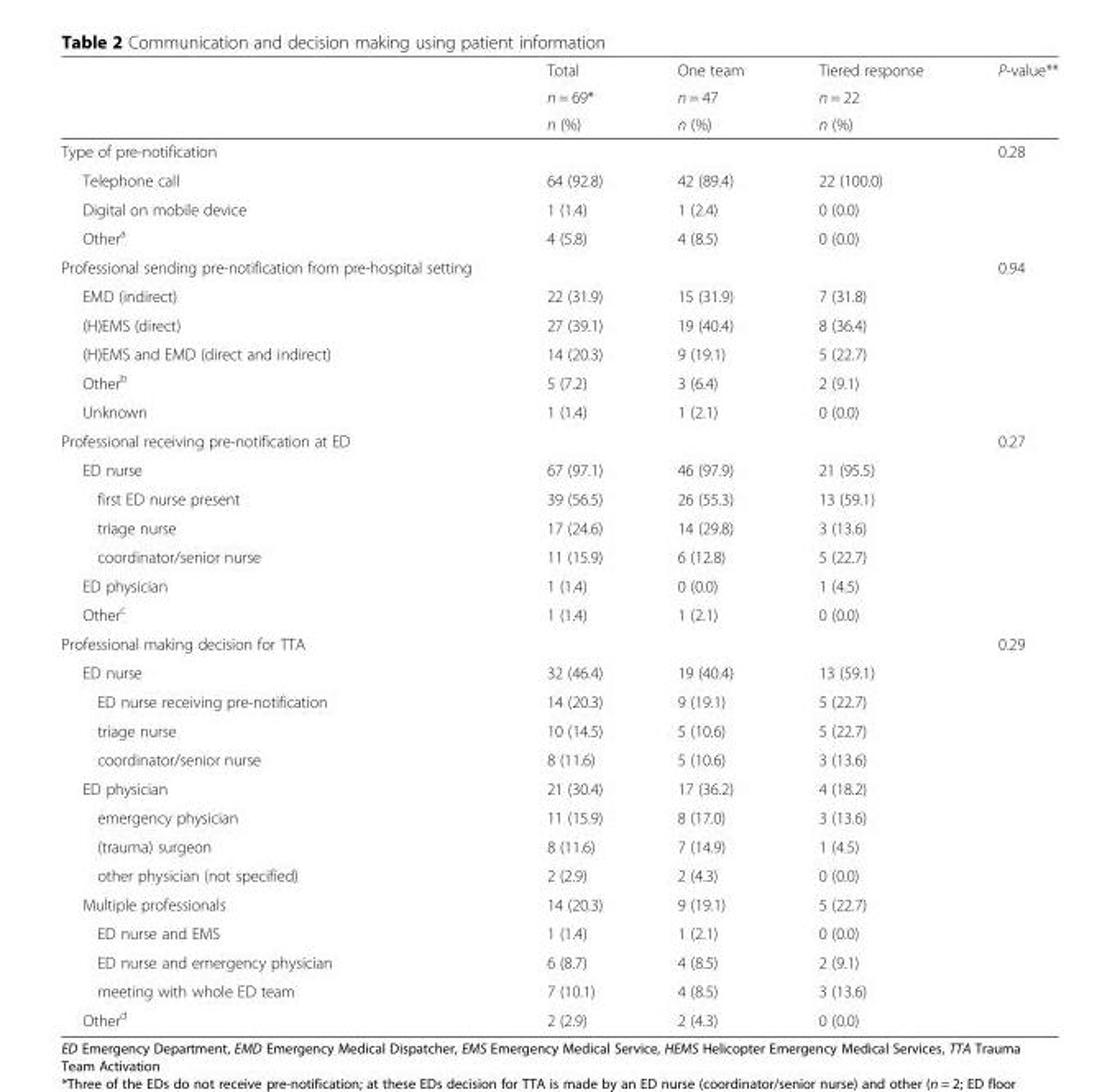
<table><thead><tr><td rowspan="3"></td><td rowspan="3">Total n = 69* n (%)</td><td rowspan="3">One team n = 47 n (%)</td><td rowspan="3">Tiered response n = 22 n (%)</td><td rowspan="3">P-value**</td></tr><tr></tr><tr></tr></thead><tbody><tr><td colspan="4">Type of pre-notification</td><td rowspan="4">0.28</td></tr><tr><td>Telephone call</td><td>64 (92.8)</td><td>42 (89.4)</td><td>22 (100.0)</td></tr><tr><td>Digital on mobile device</td><td>1 (1.4)</td><td>1 (2.4)</td><td>0 (0.0)</td></tr><tr><td>Other<sup>a</sup></td><td>4 (5.8)</td><td>4 (8.5)</td><td>0 (0.0)</td></tr><tr><td colspan="4">Professional sending pre-notification from pre-hospital setting</td><td rowspan="6">0.94</td></tr><tr><td>EMD (indirect)</td><td>22 (31.9)</td><td>15 (31.9)</td><td>7 (31.8)</td></tr><tr><td>(H)EMS (direct)</td><td>27 (39.1)</td><td>19 (40.4)</td><td>8 (36.4)</td></tr><tr><td>(H)EMS and EMD (direct and indirect)</td><td>14 (20.3)</td><td>9 (19.1)</td><td>5 (22.7)</td></tr><tr><td>Other<sup>b</sup></td><td>5 (7.2)</td><td>3 (6.4)</td><td>2 (9.1)</td></tr><tr><td>Unknown</td><td>1 (1.4)</td><td>1 (2.1)</td><td>0 (0.0)</td></tr><tr><td colspan="4">Professional receiving pre-notification at ED</td><td rowspan="7">0.27</td></tr><tr><td>ED nurse</td><td>67 (97.1)</td><td>46 (97.9)</td><td>21 (95.5)</td></tr><tr><td>first ED nurse present</td><td>39 (56.5)</td><td>26 (55.3)</td><td>13 (59.1)</td></tr><tr><td>triage nurse</td><td>17 (24.6)</td><td>14 (29.8)</td><td>3 (13.6)</td></tr><tr><td>coordinator/senior nurse</td><td>11 (15.9)</td><td>6 (12.8)</td><td>5 (22.7)</td></tr><tr><td>ED physician</td><td>1 (1.4)</td><td>0 (0.0)</td><td>1 (4.5)</td></tr><tr><td>Other<sup>c</sup></td><td>1 (1.4)</td><td>1 (2.1)</td><td>0 (0.0)</td></tr><tr><td colspan="4">Professional making decision for TTA</td><td rowspan="14">0.29</td></tr><tr><td>ED nurse</td><td>32 (46.4)</td><td>19 (40.4)</td><td>13 (59.1)</td></tr><tr><td>ED nurse receiving pre-notification</td><td>14 (20.3)</td><td>9 (19.1)</td><td>5 (22.7)</td></tr><tr><td>triage nurse</td><td>10 (14.5)</td><td>5 (10.6)</td><td>5 (22.7)</td></tr><tr><td>coordinator/senior nurse</td><td>8 (11.6)</td><td>5 (10.6)</td><td>3 (13.6)</td></tr><tr><td>ED physician</td><td>21 (30.4)</td><td>17 (36.2)</td><td>4 (18.2)</td></tr><tr><td>emergency physician</td><td>11 (15.9)</td><td>8 (17.0)</td><td>3 (13.6)</td></tr><tr><td>(trauma) surgeon</td><td>8 (11.6)</td><td>7 (14.9)</td><td>1 (4.5)</td></tr><tr><td>other physician (not specified)</td><td>2 (2.9)</td><td>2 (4.3)</td><td>0 (0.0)</td></tr><tr><td>Multiple professionals</td><td>14 (20.3)</td><td>9 (19.1)</td><td>5 (22.7)</td></tr><tr><td>ED nurse and EMS</td><td>1 (1.4)</td><td>1 (2.1)</td><td>0 (0.0)</td></tr><tr><td>ED nurse and emergency physician</td><td>6 (8.7)</td><td>4 (8.5)</td><td>2 (9.1)</td></tr><tr><td>meeting with whole ED team</td><td>7 (10.1)</td><td>4 (8.5)</td><td>3 (13.6)</td></tr><tr><td>Other<sup>d</sup></td><td>2 (2.9)</td><td>2 (4.3)</td><td>0 (0.0)</td></tr></tbody></table>